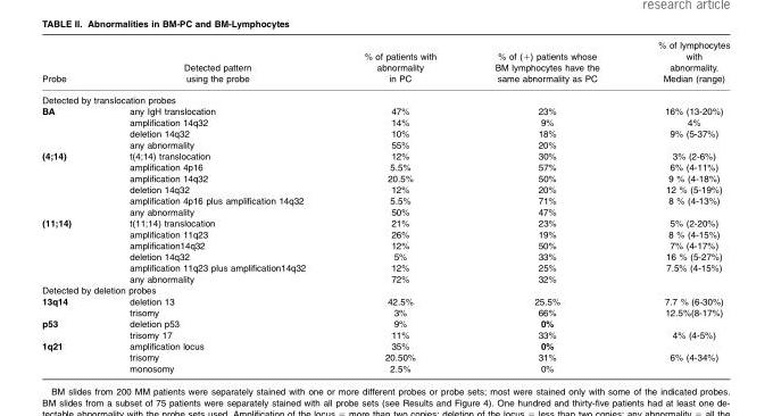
<table><thead><tr><td>Probe</td><td>Detected pattern using the probe</td><td>% of patients with abnormality in PC</td><td>% of (+) patients whose BM lymphocytes have the same abnormality as PC</td><td>% of lymphocytes with abnormality. Median (range)</td></tr></thead><tbody><tr><td colspan="5">Detected by translocation probes</td></tr><tr><td rowspan="4">BA</td><td>any IgH translocation</td><td>47%</td><td>23%</td><td>16% (13-20%)</td></tr><tr><td>amplification 14q32</td><td>14%</td><td>9%</td><td>4%</td></tr><tr><td>deletion 14q32</td><td>10%</td><td>18%</td><td>9% (5-37%)</td></tr><tr><td>any abnormality</td><td>55%</td><td>20%</td><td></td></tr><tr><td rowspan="6">(4;14)</td><td>t(4;14) translocation</td><td>12%</td><td>30%</td><td>3% (2-6%)</td></tr><tr><td>amplification 4p16</td><td>5.5%</td><td>57%</td><td>6% (4-11%)</td></tr><tr><td>amplification 14q32</td><td>20.5%</td><td>50%</td><td>9 % (4-18%)</td></tr><tr><td>deletion 14q32</td><td>12%</td><td>20%</td><td>12 % (5-19%)</td></tr><tr><td>amplification 4p16 plus amplification 14q32</td><td>5.5%</td><td>71%</td><td>8 % (4-13%)</td></tr><tr><td>any abnormality</td><td>50%</td><td>47%</td><td></td></tr><tr><td rowspan="6">(11;14)</td><td>t(11;14) translocation</td><td>21%</td><td>23%</td><td>5% (2-20%)</td></tr><tr><td>amplification 11q23</td><td>26%</td><td>19%</td><td>8 % (4-15%)</td></tr><tr><td>amplification14q32</td><td>12%</td><td>50%</td><td>7% (4-17%)</td></tr><tr><td>deletion 14q32</td><td>5%</td><td>33%</td><td>16 % (5-27%)</td></tr><tr><td>amplification 11q23 plus amplification14q32</td><td>12%</td><td>25%</td><td>7.5% (4-15%)</td></tr><tr><td>any abnormality</td><td>72%</td><td>32%</td><td></td></tr><tr><td colspan="5">Detected by deletion probes</td></tr><tr><td rowspan="2">13q14</td><td>deletion 13</td><td>42.5%</td><td>25.5%</td><td>7.7 % (6-30%)</td></tr><tr><td>trisomy</td><td>3%</td><td>66%</td><td>12.5%(8-17%)</td></tr><tr><td rowspan="2">p53</td><td>deletion p53</td><td>9%</td><td>0%</td><td></td></tr><tr><td>trisomy 17</td><td>11%</td><td>33%</td><td>4% (4-5%)</td></tr><tr><td rowspan="3">1q21</td><td>amplification locus</td><td>35%</td><td>0%</td><td></td></tr><tr><td>trisomy</td><td>20.50%</td><td>31%</td><td>6% (4-34%)</td></tr><tr><td>monosomy</td><td>2.5%</td><td>0%</td><td></td></tr></tbody></table>